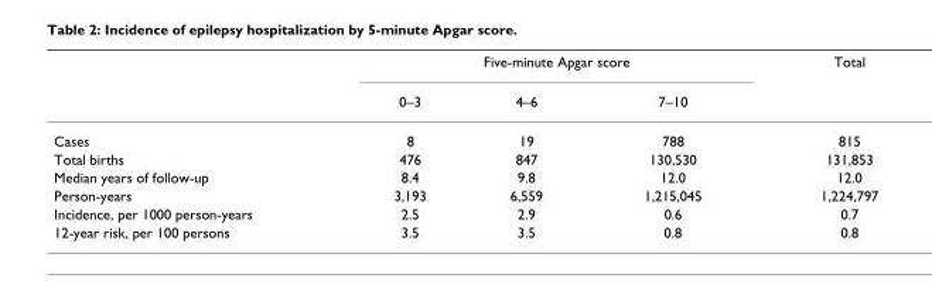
<table><thead><tr><td rowspan="2"></td><td colspan="3">Five-minute Apgar score</td><td rowspan="2">Total</td></tr><tr><td>0–3</td><td>4–6</td><td>7–10</td></tr></thead><tbody><tr><td>Cases</td><td>8</td><td>19</td><td>788</td><td>815</td></tr><tr><td>Total births</td><td>476</td><td>847</td><td>130,530</td><td>131,853</td></tr><tr><td>Median years of follow-up</td><td>8.4</td><td>9.8</td><td>12.0</td><td>12.0</td></tr><tr><td>Person-years</td><td>3,193</td><td>6,559</td><td>1,215,045</td><td>1,224,797</td></tr><tr><td>Incidence, per 1000 person-years</td><td>2.5</td><td>2.9</td><td>0.6</td><td>0.7</td></tr><tr><td>12-year risk, per 100 persons</td><td>3.5</td><td>3.5</td><td>0.8</td><td>0.8</td></tr></tbody></table>